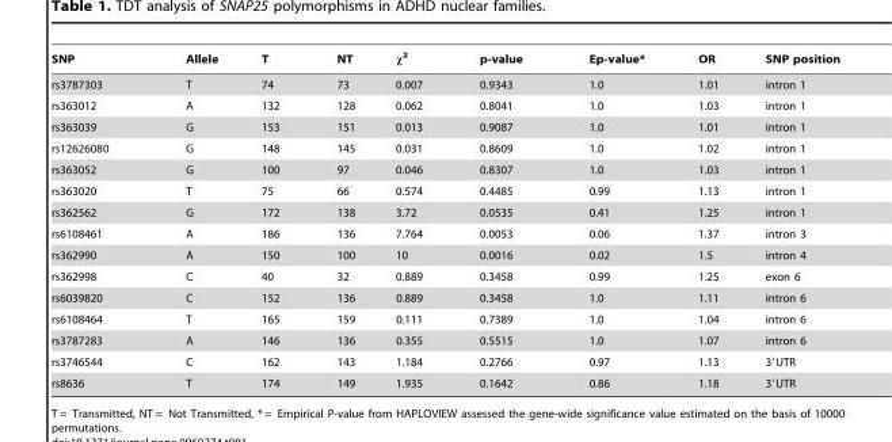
<table><thead><tr><td>SNP</td><td>Allele</td><td>T</td><td>NT</td><td>x2</td><td>p-value</td><td>Ep-value*</td><td>OR</td><td>SNP position</td></tr></thead><tbody><tr><td>rs3787303</td><td>T</td><td>74</td><td>73</td><td>0.007</td><td>0.9343</td><td>1.0</td><td>1.01</td><td>intron 1</td></tr><tr><td>rs363012</td><td>A</td><td>132</td><td>128</td><td>0.062</td><td>0.8041</td><td>1.0</td><td>1.03</td><td>intron 1</td></tr><tr><td>rs363039</td><td>G</td><td>153</td><td>151</td><td>0.013</td><td>0.9087</td><td>1.0</td><td>1.01</td><td>intron 1</td></tr><tr><td>rs12626080</td><td>G</td><td>148</td><td>145</td><td>0.031</td><td>0.8609</td><td>1.0</td><td>1.02</td><td>intron 1</td></tr><tr><td>rs363052</td><td>G</td><td>100</td><td>97</td><td>0.046</td><td>0.8307</td><td>1.0</td><td>1.03</td><td>intron 1</td></tr><tr><td>rs363020</td><td>T</td><td>75</td><td>66</td><td>0.574</td><td>0.4485</td><td>0.99</td><td>1.13</td><td>intron 1</td></tr><tr><td>rs362562</td><td>G</td><td>172</td><td>138</td><td>3.72</td><td>0.0535</td><td>0.41</td><td>1.25</td><td>intron 1</td></tr><tr><td>rs6108461</td><td>A</td><td>186</td><td>136</td><td>7.764</td><td>0.0053</td><td>0.06</td><td>1.37</td><td>intron 3</td></tr><tr><td>rs362990</td><td>A</td><td>150</td><td>100</td><td>10</td><td>0.0016</td><td>0.02</td><td>1.5</td><td>intron 4</td></tr><tr><td>rs362998</td><td>C</td><td>40</td><td>32</td><td>0.889</td><td>0.3458</td><td>0.99</td><td>1.25</td><td>exon 6</td></tr><tr><td>rs6039820</td><td>C</td><td>152</td><td>136</td><td>0.889</td><td>0.3458</td><td>1.0</td><td>1.11</td><td>intron 6</td></tr><tr><td>rs6108464</td><td>T</td><td>165</td><td>159</td><td>0.111</td><td>0.7389</td><td>1.0</td><td>1.04</td><td>intron 6</td></tr><tr><td>rs3787283</td><td>A</td><td>146</td><td>136</td><td>0.355</td><td>0.5515</td><td>1.0</td><td>1.07</td><td>intron 6</td></tr><tr><td>rs3746544</td><td>C</td><td>162</td><td>143</td><td>1.184</td><td>0.2766</td><td>0.97</td><td>1.13</td><td>3′UTR</td></tr><tr><td>rs8636</td><td>T</td><td>174</td><td>149</td><td>1.935</td><td>0.1642</td><td>0.86</td><td>1.18</td><td>3′UTR</td></tr></tbody></table>